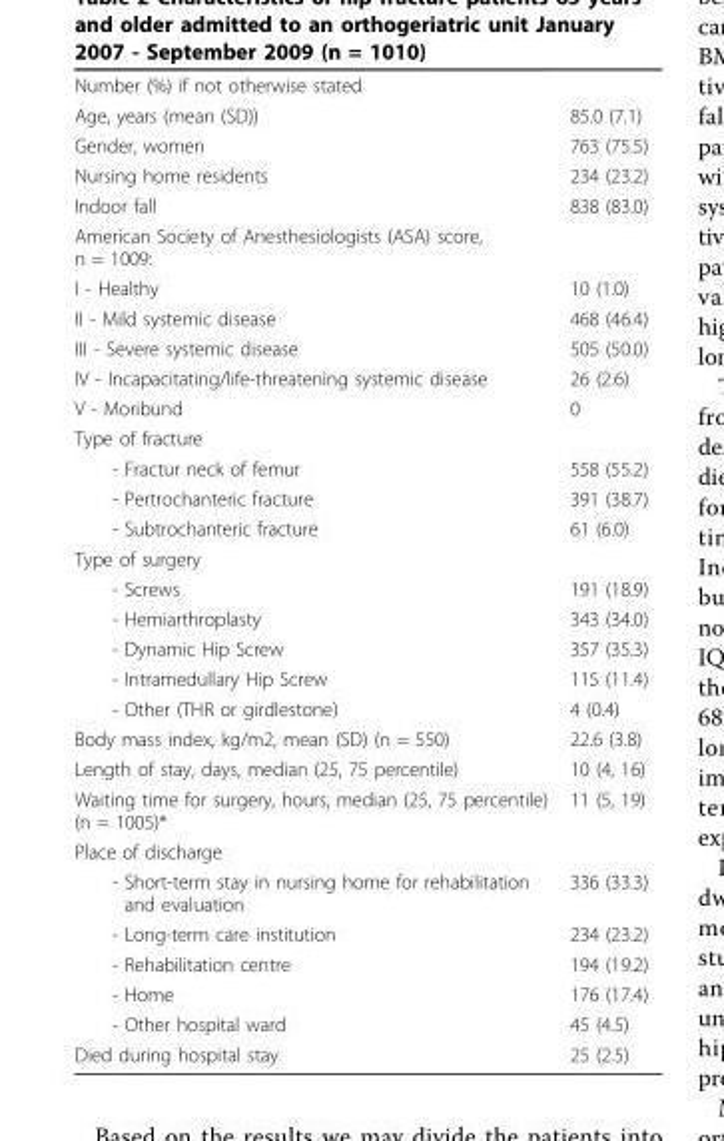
<table><thead><tr><td>Number (%) if not otherwise stated</td><td></td></tr></thead><tbody><tr><td>Age, years (mean (SD))</td><td>85.0 (7.1)</td></tr><tr><td>Gender, women</td><td>763 (75.5)</td></tr><tr><td>Nursing home residents</td><td>234 (23.2)</td></tr><tr><td>Indoor fall</td><td>838 (83.0)</td></tr><tr><td colspan="2">American Society of Anesthesiologists (ASA) score, n = 1009:</td></tr><tr><td>I - Healthy</td><td>10 (1.0)</td></tr><tr><td>II - Mild systemic disease</td><td>468 (46.4)</td></tr><tr><td>III - Severe systemic disease</td><td>505 (50.0)</td></tr><tr><td>IV - Incapacitating/life-threatening systemic disease</td><td>26 (2.6)</td></tr><tr><td>V - Moribund</td><td>0</td></tr><tr><td colspan="2">Type of fracture</td></tr><tr><td>- Fractur neck of femur</td><td>558 (55.2)</td></tr><tr><td>- Pertrochanteric fracture</td><td>391 (38.7)</td></tr><tr><td>- Subtrochanteric fracture</td><td>61 (6.0)</td></tr><tr><td colspan="2">Type of surgery</td></tr><tr><td>- Screws</td><td>191 (18.9)</td></tr><tr><td>- Hemiarthroplasty</td><td>343 (34.0)</td></tr><tr><td>- Dynamic Hip Screw</td><td>357 (35.3)</td></tr><tr><td>- Intramedullary Hip Screw</td><td>115 (11.4)</td></tr><tr><td>- Other (THR or girdlestone)</td><td>4 (0.4)</td></tr><tr><td>Body mass index, kg/m2, mean (SD) (n = 550)</td><td>22.6 (3.8)</td></tr><tr><td>Length of stay, days, median (25, 75 percentile)</td><td>10 (4, 16)</td></tr><tr><td>Waiting time for surgery, hours, median (25, 75 percentile) (n = 1005)*</td><td>11 (5, 19)</td></tr><tr><td colspan="2">Place of discharge</td></tr><tr><td>- Short-term stay in nursing home for rehabilitation and evaluation</td><td>336 (33.3)</td></tr><tr><td>- Long-term care institution</td><td>234 (23.2)</td></tr><tr><td>- Rehabilitation centre</td><td>194 (19.2)</td></tr><tr><td>- Home</td><td>176 (17.4)</td></tr><tr><td>- Other hospital ward</td><td>45 (4.5)</td></tr><tr><td>Died during hospital stay</td><td>25 (2.5)</td></tr></tbody></table>